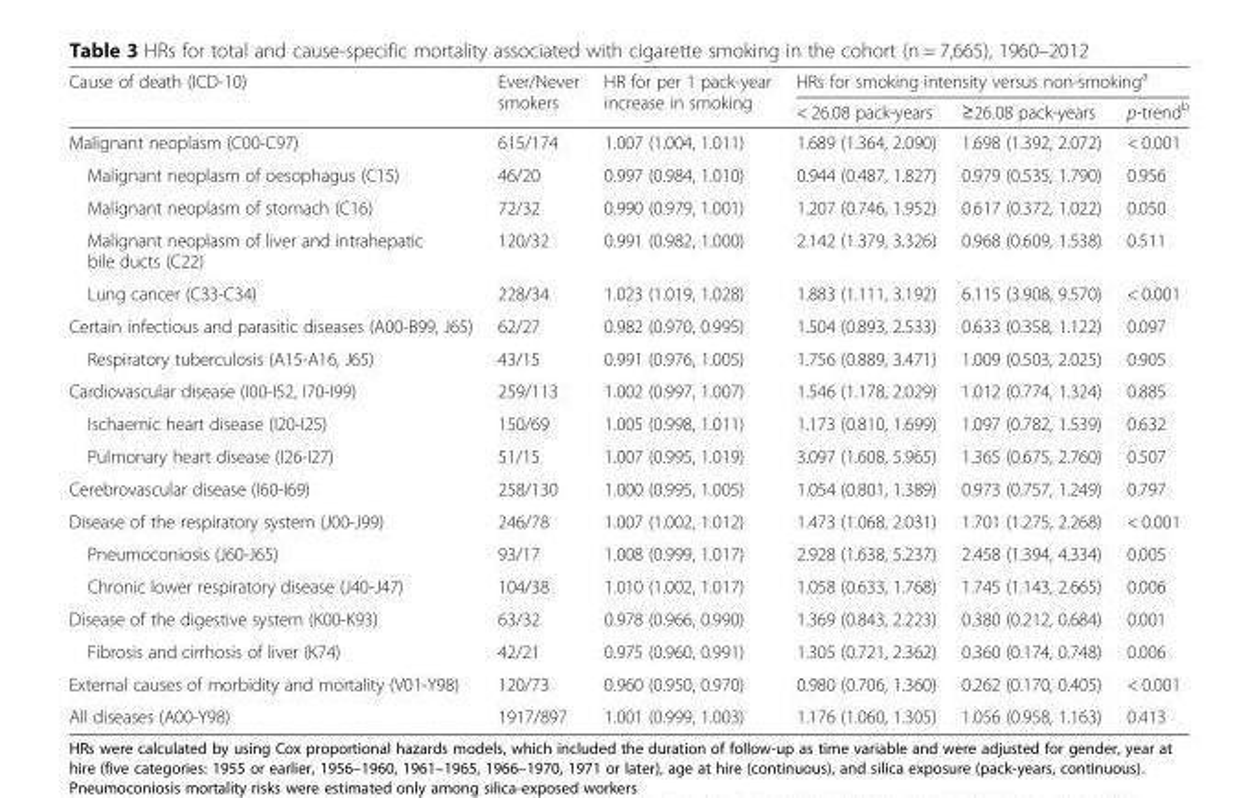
<table><thead><tr><td rowspan="2">Cause of death (ICD-10)</td><td rowspan="2">Ever/Never smokers</td><td rowspan="2">HR for per 1 pack-year increase in smoking</td><td colspan="3">HRs for smoking intensity versus non-smoking<sup>a</sup></td></tr><tr><td>&lt; 26.08 pack-years</td><td>≥26.08 pack-years</td><td>p-trend<sup>b</sup></td></tr></thead><tbody><tr><td>Malignant neoplasm (C00-C97)</td><td>615/174</td><td>1.007 (1.004, 1.011)</td><td>1.689 (1.364, 2.090)</td><td>1.698 (1.392, 2.072)</td><td>&lt; 0.001</td></tr><tr><td>Malignant neoplasm of oesophagus (C15)</td><td>46/20</td><td>0.997 (0.984, 1.010)</td><td>0.944 (0.487, 1.827)</td><td>0.979 (0.535, 1.790)</td><td>0.956</td></tr><tr><td>Malignant neoplasm of stomach (C16)</td><td>72/32</td><td>0.990 (0.979, 1.001)</td><td>1.207 (0.746, 1.952)</td><td>0.617 (0.372, 1.022)</td><td>0.050</td></tr><tr><td>Malignant neoplasm of liver and intrahepatic bile ducts (C22)</td><td>120/32</td><td>0.991 (0.982, 1.000)</td><td>2.142 (1.379, 3.326)</td><td>0.968 (0.609, 1.538)</td><td>0.511</td></tr><tr><td>Lung cancer (C33-C34)</td><td>228/34</td><td>1.023 (1.019, 1.028)</td><td>1.883 (1.111, 3.192)</td><td>6.115 (3.908, 9.570)</td><td>&lt; 0.001</td></tr><tr><td>Certain infectious and parasitic diseases (A00-B99, J65)</td><td>62/27</td><td>0.982 (0.970, 0.995)</td><td>1.504 (0.893, 2.533)</td><td>0.633 (0.358, 1.122)</td><td>0.097</td></tr><tr><td>Respiratory tuberculosis (A15-A16, J65)</td><td>43/15</td><td>0.991 (0.976, 1.005)</td><td>1.756 (0.889, 3.471)</td><td>1.009 (0.503, 2.025)</td><td>0.905</td></tr><tr><td>Cardiovascular disease (I00-I52, I70-I99)</td><td>259/113</td><td>1.002 (0.997, 1.007)</td><td>1.546 (1.178, 2.029)</td><td>1.012 (0.774, 1.324)</td><td>0.885</td></tr><tr><td>Ischaemic heart disease (I20-I25)</td><td>150/69</td><td>1.005 (0.998, 1.011)</td><td>1.173 (0.810, 1.699)</td><td>1.097 (0.782, 1.539)</td><td>0.632</td></tr><tr><td>Pulmonary heart disease (I26-I27)</td><td>51/15</td><td>1.007 (0.995, 1.019)</td><td>3.097 (1.608, 5.965)</td><td>1.365 (0.675, 2.760)</td><td>0.507</td></tr><tr><td>Cerebrovascular disease (I60-I69)</td><td>258/130</td><td>1.000 (0.995, 1.005)</td><td>1.054 (0.801, 1.389)</td><td>0.973 (0.757, 1.249)</td><td>0.797</td></tr><tr><td>Disease of the respiratory system (J00-J99)</td><td>246/78</td><td>1.007 (1.002, 1.012)</td><td>1.473 (1.068, 2.031)</td><td>1.701 (1.275, 2.268)</td><td>&lt; 0.001</td></tr><tr><td>Pneumoconiosis (J60-J65)</td><td>93/17</td><td>1.008 (0.999, 1.017)</td><td>2.928 (1.638, 5.237)</td><td>2.458 (1.394, 4.334)</td><td>0.005</td></tr><tr><td>Chronic lower respiratory disease (J40-J47)</td><td>104/38</td><td>1.010 (1.002, 1.017)</td><td>1.058 (0.633, 1.768)</td><td>1.745 (1.143, 2.665)</td><td>0.006</td></tr><tr><td>Disease of the digestive system (K00-K93)</td><td>63/32</td><td>0.978 (0.966, 0.990)</td><td>1.369 (0.843, 2.223)</td><td>0.380 (0.212, 0.684)</td><td>0.001</td></tr><tr><td>Fibrosis and cirrhosis of liver (K74)</td><td>42/21</td><td>0.975 (0.960, 0.991)</td><td>1.305 (0.721, 2.362)</td><td>0.360 (0.174, 0.748)</td><td>0.006</td></tr><tr><td>External causes of morbidity and mortality (V01-Y98)</td><td>120/73</td><td>0.960 (0.950, 0.970)</td><td>0.980 (0.706, 1.360)</td><td>0.262 (0.170, 0.405)</td><td>&lt; 0.001</td></tr><tr><td>All diseases (A00-Y98)</td><td>1917/897</td><td>1.001 (0.999, 1.003)</td><td>1.176 (1.060, 1.305)</td><td>1.056 (0.958, 1.163)</td><td>0.413</td></tr></tbody></table>